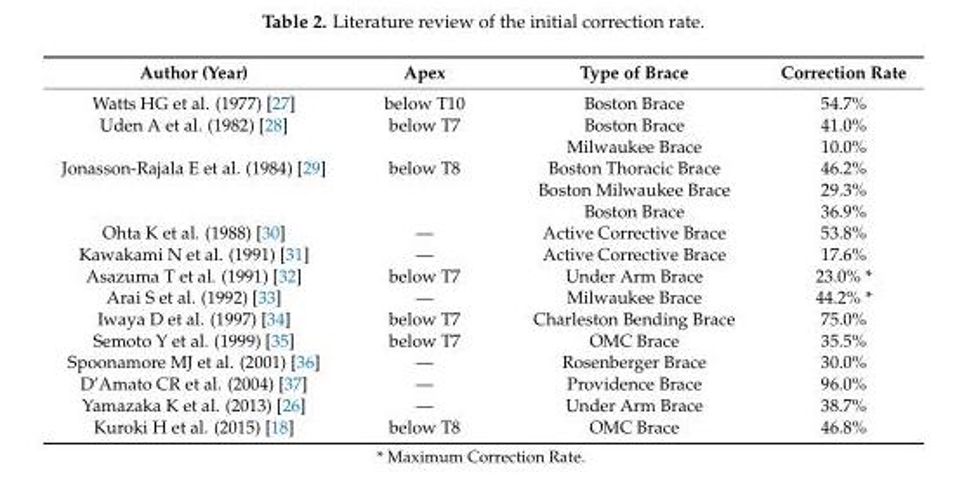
<table><thead><tr><td>Author (Year)</td><td>Apex</td><td>Type of Brace</td><td>Correction Rate</td></tr></thead><tbody><tr><td>Watts HG et al. (1977) [27]</td><td>below T10</td><td>Boston Brace</td><td>54.7%</td></tr><tr><td rowspan="2">Uden A et al. (1982) [28]</td><td>below T7</td><td>Boston Brace</td><td>41.0%</td></tr><tr><td></td><td>Milwaukee Brace</td><td>10.0%</td></tr><tr><td rowspan="3">Jonasson-Rajala E et al. (1984) [29]</td><td>below T8</td><td>Boston Thoracic Brace</td><td>46.2%</td></tr><tr><td></td><td>Boston Milwaukee Brace</td><td>29.3%</td></tr><tr><td></td><td>Boston Brace</td><td>36.9%</td></tr><tr><td>Ohta K et al. (1988) [30]</td><td>—</td><td>Active Corrective Brace</td><td>53.8%</td></tr><tr><td>Kawakami N et al. (1991) [31]</td><td>—</td><td>Active Corrective Brace</td><td>17.6%</td></tr><tr><td>Asazuma T et al. (1991) [32]</td><td>below T7</td><td>Under Arm Brace</td><td>23.0% *</td></tr><tr><td>Arai S et al. (1992) [33]</td><td>—</td><td>Milwaukee Brace</td><td>44.2% *</td></tr><tr><td>Iwaya D et al. (1997) [34]</td><td>below T7</td><td>Charleston Bending Brace</td><td>75.0%</td></tr><tr><td>Semoto Y et al. (1999) [35]</td><td>below T7</td><td>OMC Brace</td><td>35.5%</td></tr><tr><td>Spoonamore MJ et al. (2001) [36]</td><td>—</td><td>Rosenberger Brace</td><td>30.0%</td></tr><tr><td>D’Amato CR et al. (2004) [37]</td><td>—</td><td>Providence Brace</td><td>96.0%</td></tr><tr><td>Yamazaka K et al. (2013) [26]</td><td>—</td><td>Under Arm Brace</td><td>38.7%</td></tr><tr><td>Kuroki H et al. (2015) [18]</td><td>below T8</td><td>OMC Brace</td><td>46.8%</td></tr></tbody></table>